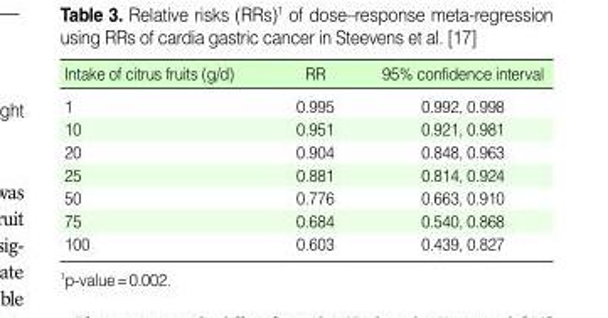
<table><thead><tr><td>Intake of citrus fruits (g/d)</td><td>RR</td><td>95% confidence interval</td></tr></thead><tbody><tr><td>1</td><td>0.995</td><td>0.992, 0.998</td></tr><tr><td>10</td><td>0.951</td><td>0.921, 0.981</td></tr><tr><td>20</td><td>0.904</td><td>0.848, 0.963</td></tr><tr><td>25</td><td>0.881</td><td>0.814, 0.924</td></tr><tr><td>50</td><td>0.776</td><td>0.663, 0.910</td></tr><tr><td>75</td><td>0.684</td><td>0.540, 0.868</td></tr><tr><td>100</td><td>0.603</td><td>0.439, 0.827</td></tr></tbody></table>